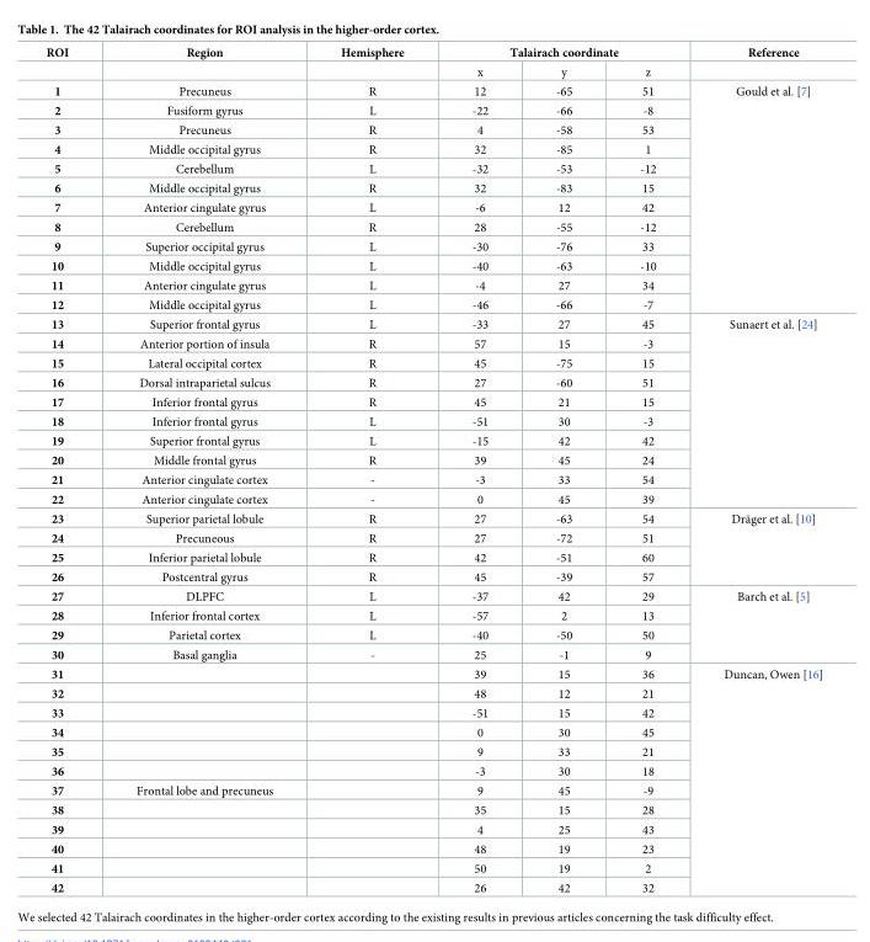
<table><thead><tr><td rowspan="2">ROI</td><td rowspan="2">Region</td><td rowspan="2">Hemisphere</td><td colspan="3">Talairach coordinate</td><td rowspan="2">Reference</td></tr><tr><td>x</td><td>y</td><td>z</td></tr></thead><tbody><tr><td>1</td><td>Precuneus</td><td>R</td><td>12</td><td>-65</td><td>51</td><td rowspan="12">Gould et al. [7]</td></tr><tr><td>2</td><td>Fusiform gyrus</td><td>L</td><td>-22</td><td>-66</td><td>-8</td></tr><tr><td>3</td><td>Precuneus</td><td>R</td><td>4</td><td>-58</td><td>53</td></tr><tr><td>4</td><td>Middle occipital gyrus</td><td>R</td><td>32</td><td>-85</td><td>1</td></tr><tr><td>5</td><td>Cerebellum</td><td>L</td><td>-32</td><td>-53</td><td>-12</td></tr><tr><td>6</td><td>Middle occipital gyrus</td><td>R</td><td>32</td><td>-83</td><td>15</td></tr><tr><td>7</td><td>Anterior cingulate gyrus</td><td>L</td><td>-6</td><td>12</td><td>42</td></tr><tr><td>8</td><td>Cerebellum</td><td>R</td><td>28</td><td>-55</td><td>-12</td></tr><tr><td>9</td><td>Superior occipital gyrus</td><td>L</td><td>-30</td><td>-76</td><td>33</td></tr><tr><td>10</td><td>Middle occipital gyrus</td><td>L</td><td>-40</td><td>-63</td><td>-10</td></tr><tr><td>11</td><td>Anterior cingulate gyrus</td><td>L</td><td>-4</td><td>27</td><td>34</td></tr><tr><td>12</td><td>Middle occipital gyrus</td><td>L</td><td>-46</td><td>-66</td><td>-7</td></tr><tr><td>13</td><td>Superior frontal gyrus</td><td>L</td><td>-33</td><td>27</td><td>45</td><td rowspan="10">Sunaert et al. [24]</td></tr><tr><td>14</td><td>Anterior portion of insula</td><td>R</td><td>57</td><td>15</td><td>-3</td></tr><tr><td>15</td><td>Lateral occipital cortex</td><td>R</td><td>45</td><td>-75</td><td>15</td></tr><tr><td>16</td><td>Dorsal intraparietal sulcus</td><td>R</td><td>27</td><td>-60</td><td>51</td></tr><tr><td>17</td><td>Inferior frontal gyrus</td><td>R</td><td>45</td><td>21</td><td>15</td></tr><tr><td>18</td><td>Inferior frontal gyrus</td><td>L</td><td>-51</td><td>30</td><td>-3</td></tr><tr><td>19</td><td>Superior frontal gyrus</td><td>L</td><td>-15</td><td>42</td><td>42</td></tr><tr><td>20</td><td>Middle frontal gyrus</td><td>R</td><td>39</td><td>45</td><td>24</td></tr><tr><td>21</td><td>Anterior cingulate cortex</td><td>-</td><td>-3</td><td>33</td><td>54</td></tr><tr><td>22</td><td>Anterior cingulate cortex</td><td>-</td><td>0</td><td>45</td><td>39</td></tr><tr><td>23</td><td>Superior parietal lobule</td><td>R</td><td>27</td><td>-63</td><td>54</td><td rowspan="4">Dra¨ger et al. [10]</td></tr><tr><td>24</td><td>Precuneous</td><td>R</td><td>27</td><td>-72</td><td>51</td></tr><tr><td>25</td><td>Inferior parietal lobule</td><td>R</td><td>42</td><td>-51</td><td>60</td></tr><tr><td>26</td><td>Postcentral gyrus</td><td>R</td><td>45</td><td>-39</td><td>57</td></tr><tr><td>27</td><td>DLPFC</td><td>L</td><td>-37</td><td>42</td><td>29</td><td rowspan="4">Barch et al. [5]</td></tr><tr><td>28</td><td>Inferior frontal cortex</td><td>L</td><td>-57</td><td>2</td><td>13</td></tr><tr><td>29</td><td>Parietal cortex</td><td>L</td><td>-40</td><td>-50</td><td>50</td></tr><tr><td>30</td><td>Basal ganglia</td><td>-</td><td>25</td><td>-1</td><td>9</td></tr><tr><td>31</td><td></td><td></td><td>39</td><td>15</td><td>36</td><td rowspan="12">Duncan, Owen [16]</td></tr><tr><td>32</td><td></td><td></td><td>48</td><td>12</td><td>21</td></tr><tr><td>33</td><td></td><td></td><td>-51</td><td>15</td><td>42</td></tr><tr><td>34</td><td></td><td></td><td>0</td><td>30</td><td>45</td></tr><tr><td>35</td><td></td><td></td><td>9</td><td>33</td><td>21</td></tr><tr><td>36</td><td></td><td></td><td>-3</td><td>30</td><td>18</td></tr><tr><td>37</td><td>Frontal lobe and precuneus</td><td></td><td>9</td><td>45</td><td>-9</td></tr><tr><td>38</td><td></td><td></td><td>35</td><td>15</td><td>28</td></tr><tr><td>39</td><td></td><td></td><td>4</td><td>25</td><td>43</td></tr><tr><td>40</td><td></td><td></td><td>48</td><td>19</td><td>23</td></tr><tr><td>41</td><td></td><td></td><td>50</td><td>19</td><td>2</td></tr><tr><td>42</td><td></td><td></td><td>26</td><td>42</td><td>32</td></tr></tbody></table>